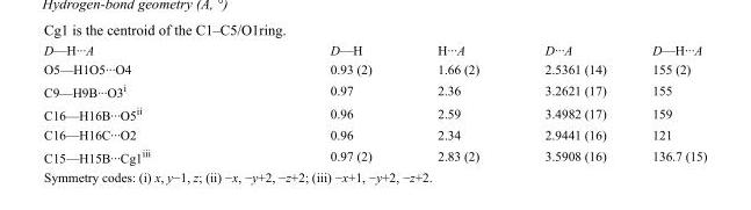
<table><tbody><tr><td>D—H···A</td><td>D—H</td><td>H···A</td><td>D···A</td><td>D—H···A</td></tr><tr><td>O5—H1O5···O4</td><td>0.93 (2)</td><td>1.66 (2)</td><td>2.5361 (14)</td><td>155 (2)</td></tr><tr><td>C9—H9B···O3<sup>i</sup></td><td>0.97</td><td>2.36</td><td>3.2621 (17)</td><td>155</td></tr><tr><td>C16—H16B···O5<sup>ii</sup></td><td>0.96</td><td>2.59</td><td>3.4982 (17)</td><td>159</td></tr><tr><td>C16—H16C···O2</td><td>0.96</td><td>2.34</td><td>2.9441 (16)</td><td>121</td></tr><tr><td>C15—H15B···Cg1<sup>iii</sup></td><td>0.97 (2)</td><td>2.83 (2)</td><td>3.5908 (16)</td><td>136.7 (15)</td></tr></tbody></table>